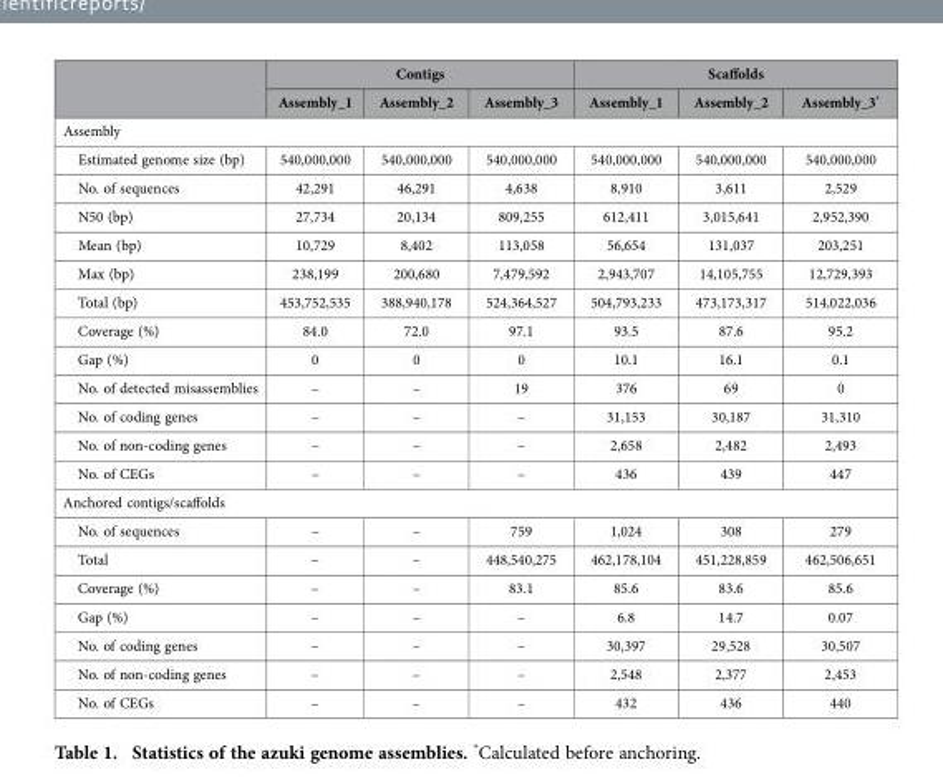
<table><thead><tr><td rowspan="2"></td><td colspan="3">Contigs</td><td colspan="3">Scaffolds</td></tr><tr><td>Assembly_1</td><td>Assembly_2</td><td>Assembly_3</td><td>Assembly_1</td><td>Assembly_2</td><td>Assembly_3*</td></tr></thead><tbody><tr><td colspan="7">Assembly</td></tr><tr><td>Estimated genome size (bp)</td><td>540,000,000</td><td>540,000,000</td><td>540,000,000</td><td>540,000,000</td><td>540,000,000</td><td>540,000,000</td></tr><tr><td>No. of sequences</td><td>42,291</td><td>46,291</td><td>4,638</td><td>8,910</td><td>3,611</td><td>2,529</td></tr><tr><td>N50 (bp)</td><td>27,734</td><td>20,134</td><td>809,255</td><td>612,411</td><td>3,015,641</td><td>2,952,390</td></tr><tr><td>Mean (bp)</td><td>10,729</td><td>8,402</td><td>113,058</td><td>56,654</td><td>131,037</td><td>203,251</td></tr><tr><td>Max (bp)</td><td>238,199</td><td>200,680</td><td>7,479,592</td><td>2,943,707</td><td>14,105,755</td><td>12,729,393</td></tr><tr><td>Total (bp)</td><td>453,752,535</td><td>388,940,178</td><td>524,364,527</td><td>504,793,233</td><td>473,173,317</td><td>514,022,036</td></tr><tr><td>Coverage (%)</td><td>84.0</td><td>72.0</td><td>97.1</td><td>93.5</td><td>87.6</td><td>95.2</td></tr><tr><td>Gap (%)</td><td>0</td><td>0</td><td>0</td><td>10.1</td><td>16.1</td><td>0.1</td></tr><tr><td>No. of detected misassemblies</td><td>–</td><td>–</td><td>19</td><td>376</td><td>69</td><td>0</td></tr><tr><td>No. of coding genes</td><td>–</td><td>–</td><td>–</td><td>31,153</td><td>30,187</td><td>31,310</td></tr><tr><td>No. of non-coding genes</td><td>–</td><td>–</td><td>–</td><td>2,658</td><td>2,482</td><td>2,493</td></tr><tr><td>No. of CEGs</td><td>–</td><td>–</td><td>–</td><td>436</td><td>439</td><td>447</td></tr><tr><td colspan="7">Anchored contigs/scaffolds</td></tr><tr><td>No. of sequences</td><td>–</td><td>–</td><td>759</td><td>1,024</td><td>308</td><td>279</td></tr><tr><td>Total</td><td>–</td><td>–</td><td>448,540,275</td><td>462,178,104</td><td>451,228,859</td><td>462,506,651</td></tr><tr><td>Coverage (%)</td><td>–</td><td>–</td><td>83.1</td><td>85.6</td><td>83.6</td><td>85.6</td></tr><tr><td>Gap (%)</td><td>–</td><td>–</td><td>–</td><td>6.8</td><td>14.7</td><td>0.07</td></tr><tr><td>No. of coding genes</td><td>–</td><td>–</td><td>–</td><td>30,397</td><td>29,528</td><td>30,507</td></tr><tr><td>No. of non-coding genes</td><td>–</td><td>–</td><td>–</td><td>2,548</td><td>2,377</td><td>2,453</td></tr><tr><td>No. of CEGs</td><td>–</td><td>–</td><td>–</td><td>432</td><td>436</td><td>440</td></tr></tbody></table>